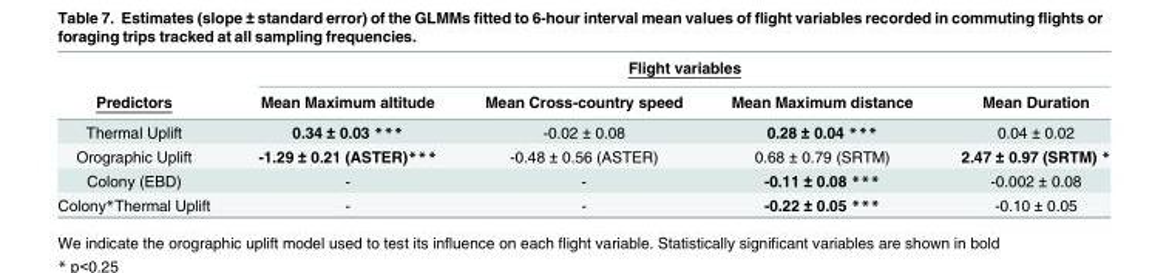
<table><thead><tr><td rowspan="2">Predictors</td><td colspan="4">Flight variables</td></tr><tr><td>Mean Maximum altitude</td><td>Mean Cross-country speed</td><td>Mean Maximum distance</td><td>Mean Duration</td></tr></thead><tbody><tr><td>Thermal Uplift</td><td>0.34 ± 0.03 ***</td><td>-0.02 ± 0.08</td><td>0.28 ± 0.04 ***</td><td>0.04 ± 0.02</td></tr><tr><td>Orographic Uplift</td><td>-1.29 ± 0.21 (ASTER)***</td><td>-0.48 ± 0.56 (ASTER)</td><td>0.68 ± 0.79 (SRTM)</td><td>2.47 ± 0.97 (SRTM) *</td></tr><tr><td>Colony (EBD)</td><td>-</td><td>-</td><td>-0.11 ± 0.08 ***</td><td>-0.002 ± 0.08</td></tr><tr><td>Colony*Thermal Uplift</td><td>-</td><td>-</td><td>-0.22 ± 0.05 ***</td><td>-0.10 ± 0.05</td></tr></tbody></table>